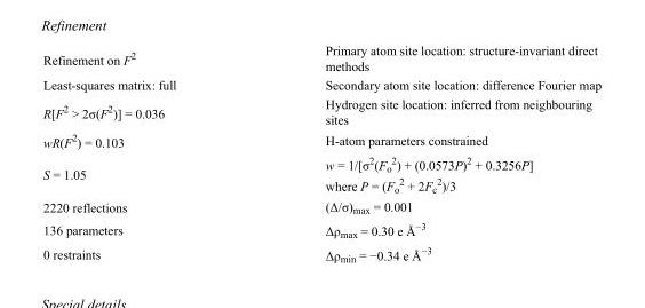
<table><tbody><tr><td>Refinement on F<sup>2</sup></td><td>Primary atom site location: structure-invariant direct methods</td></tr><tr><td>Least-squares matrix: full</td><td>Secondary atom site location: difference Fourier map</td></tr><tr><td>R[F<sup>2</sup> &gt; 2σ(F<sup>2</sup>)] = 0.036</td><td>Hydrogen site location: inferred from neighbouring sites</td></tr><tr><td>wR(F<sup>2</sup>) = 0.103</td><td>H-atom parameters constrained</td></tr><tr><td>S = 1.05</td><td>w = 1/[σ<sup>2</sup>(F<sub>o</sub> <sup>2</sup>) + (0.0573P)<sup>2</sup> + 0.3256P] where P = (F<sub>o</sub> <sup>2</sup> + 2F<sub>c</sub> <sup>2</sup>)/3</td></tr><tr><td>2220 reflections</td><td>(Δ/σ)<sub>max</sub> = 0.001</td></tr><tr><td>136 parameters</td><td>Δρ<sub>max</sub> = 0.30 e Å<sup>−3</sup></td></tr><tr><td>0 restraints</td><td>Δρ<sub>min</sub> = −0.34 e Å<sup>−3</sup></td></tr></tbody></table>